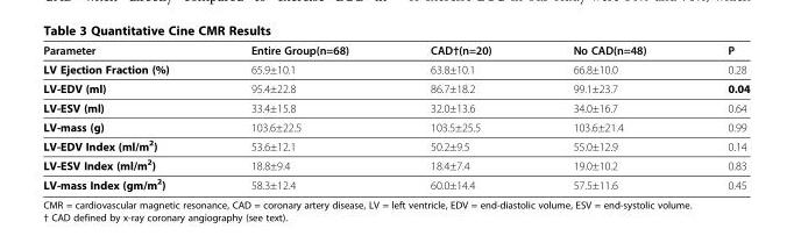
<table><thead><tr><td>Parameter</td><td>Entire Group(n=68)</td><td>CAD†(n=20)</td><td>No CAD(n=48)</td><td>P</td></tr></thead><tbody><tr><td>LV Ejection Fraction (%)</td><td>65.9±10.1</td><td>63.8±10.1</td><td>66.8±10.0</td><td>0.28</td></tr><tr><td>LV-EDV (ml)</td><td>95.4±22.8</td><td>86.7±18.2</td><td>99.1±23.7</td><td>0.04</td></tr><tr><td>LV-ESV (ml)</td><td>33.4±15.8</td><td>32.0±13.6</td><td>34.0±16.7</td><td>0.64</td></tr><tr><td>LV-mass (g)</td><td>103.6±22.5</td><td>103.5±25.5</td><td>103.6±21.4</td><td>0.99</td></tr><tr><td>LV-EDV Index (ml/m<sup>2</sup>)</td><td>53.6±12.1</td><td>50.2±9.5</td><td>55.0±12.9</td><td>0.14</td></tr><tr><td>LV-ESV Index (ml/m<sup>2</sup>)</td><td>18.8±9.4</td><td>18.4±7.4</td><td>19.0±10.2</td><td>0.83</td></tr><tr><td>LV-mass Index (gm/m<sup>2</sup>)</td><td>58.3±12.4</td><td>60.0±14.4</td><td>57.5±11.6</td><td>0.45</td></tr></tbody></table>